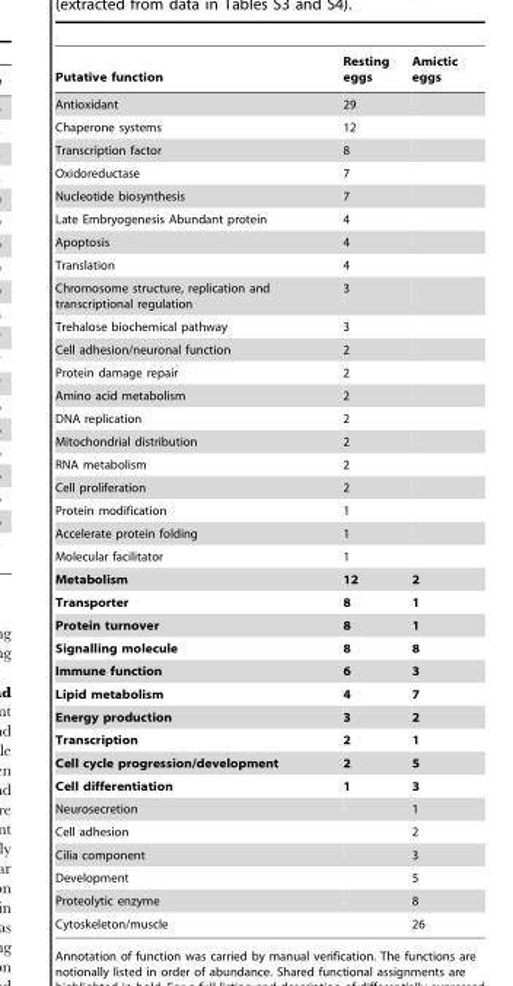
<table><thead><tr><td>Putative function</td><td>Resting eggs</td><td>Amictic eggs</td></tr></thead><tbody><tr><td>Antioxidant</td><td>29</td><td></td></tr><tr><td>Chaperone systems</td><td>12</td><td></td></tr><tr><td>Transcription factor</td><td>8</td><td></td></tr><tr><td>Oxidoreductase</td><td>7</td><td></td></tr><tr><td>Nucleotide biosynthesis</td><td>7</td><td></td></tr><tr><td>Late Embryogenesis Abundant protein</td><td>4</td><td></td></tr><tr><td>Apoptosis</td><td>4</td><td></td></tr><tr><td>Translation</td><td>4</td><td></td></tr><tr><td>Chromosome structure, replication and transcriptional regulation</td><td>3</td><td></td></tr><tr><td>Trehalose biochemical pathway</td><td>3</td><td></td></tr><tr><td>Cell adhesion/neuronal function</td><td>2</td><td></td></tr><tr><td>Protein damage repair</td><td>2</td><td></td></tr><tr><td>Amino acid metabolism</td><td>2</td><td></td></tr><tr><td>DNA replication</td><td>2</td><td></td></tr><tr><td>Mitochondrial distribution</td><td>2</td><td></td></tr><tr><td>RNA metabolism</td><td>2</td><td></td></tr><tr><td>Cell proliferation</td><td>2</td><td></td></tr><tr><td>Protein modification</td><td>1</td><td></td></tr><tr><td>Accelerate protein folding</td><td>1</td><td></td></tr><tr><td>Molecular facilitator</td><td>1</td><td></td></tr><tr><td>Metabolism</td><td>12</td><td>2</td></tr><tr><td>Transporter</td><td>8</td><td>1</td></tr><tr><td>Protein turnover</td><td>8</td><td>1</td></tr><tr><td>Signalling molecule</td><td>8</td><td>8</td></tr><tr><td>Immune function</td><td>6</td><td>3</td></tr><tr><td>Lipid metabolism</td><td>4</td><td>7</td></tr><tr><td>Energy production</td><td>3</td><td>2</td></tr><tr><td>Transcription</td><td>2</td><td>1</td></tr><tr><td>Cell cycle progression/development</td><td>2</td><td>5</td></tr><tr><td>Cell differentiation</td><td>1</td><td>3</td></tr><tr><td>Neurosecretion</td><td></td><td>1</td></tr><tr><td>Cell adhesion</td><td></td><td>2</td></tr><tr><td>Cilia component</td><td></td><td>3</td></tr><tr><td>Development</td><td></td><td>5</td></tr><tr><td>Proteolytic enzyme</td><td></td><td>8</td></tr><tr><td>Cytoskeleton/muscle</td><td></td><td>26</td></tr></tbody></table>